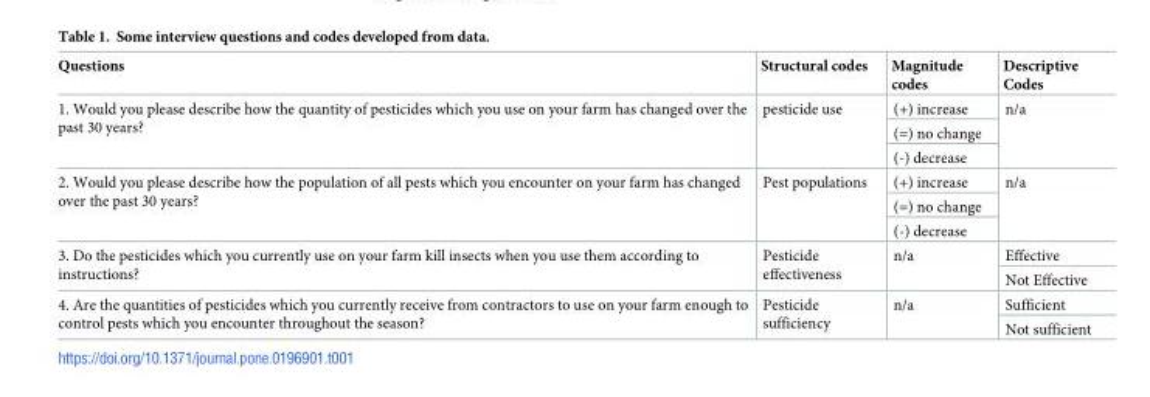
<table><thead><tr><td>Questions</td><td>Structural codes</td><td>Magnitude codes</td><td>Descriptive Codes</td></tr></thead><tbody><tr><td rowspan="3">1. Would you please describe how the quantity of pesticides which you use on your farm has changed over the past 30 years?</td><td rowspan="3">pesticide use</td><td>(+) increase</td><td rowspan="3">n/a</td></tr><tr><td>(=) no change</td></tr><tr><td>(-) decrease</td></tr><tr><td rowspan="3">2. Would you please describe how the population of all pests which you encounter on your farm has changed over the past 30 years?</td><td rowspan="3">Pest populations</td><td>(+) increase</td><td rowspan="3">n/a</td></tr><tr><td>(=) no change</td></tr><tr><td>(-) decrease</td></tr><tr><td rowspan="2">3. Do the pesticides which you currently use on your farm kill insects when you use them according to instructions?</td><td rowspan="2">Pesticide effectiveness</td><td rowspan="2">n/a</td><td>Effective</td></tr><tr><td>Not Effective</td></tr><tr><td rowspan="2">4. Are the quantities of pesticides which you currently receive from contractors to use on your farm enough to control pests which you encounter throughout the season?</td><td rowspan="2">Pesticide sufficiency</td><td rowspan="2">n/a</td><td>Sufficient</td></tr><tr><td>Not sufficient</td></tr></tbody></table>